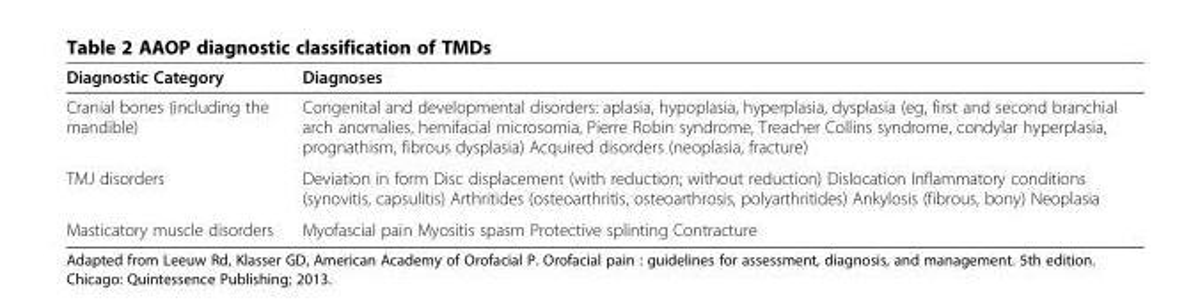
<table><thead><tr><td>Diagnostic Category</td><td>Diagnoses</td></tr></thead><tbody><tr><td>Cranial bones (including the mandible)</td><td>Congenital and developmental disorders: aplasia, hypoplasia, hyperplasia, dysplasia (eg, first and second branchial arch anomalies, hemifacial microsomia, Pierre Robin syndrome, Treacher Collins syndrome, condylar hyperplasia, prognathism, fibrous dysplasia) Acquired disorders (neoplasia, fracture)</td></tr><tr><td>TMJ disorders</td><td>Deviation in form Disc displacement (with reduction; without reduction) Dislocation Inflammatory conditions (synovitis, capsulitis) Arthritides (osteoarthritis, osteoarthrosis, polyarthritides) Ankylosis (fibrous, bony) Neoplasia</td></tr><tr><td>Masticatory muscle disorders</td><td>Myofascial pain Myositis spasm Protective splinting Contracture</td></tr></tbody></table>